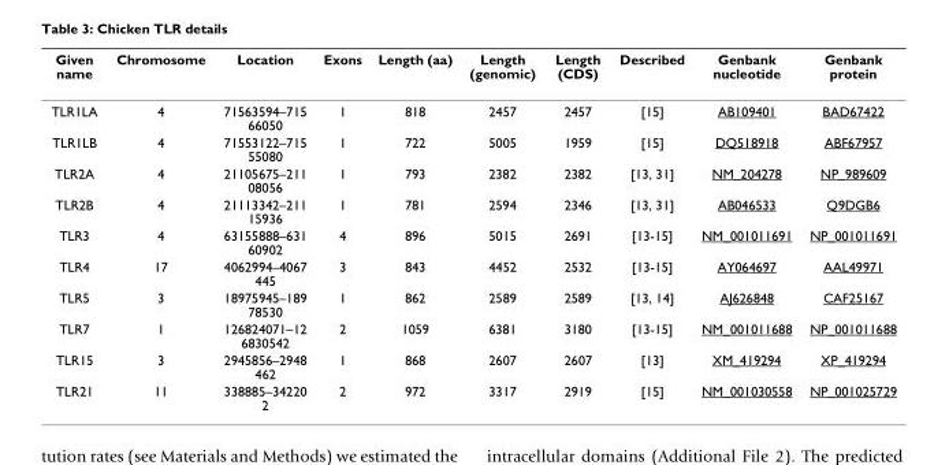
<table><thead><tr><td>Given name</td><td>Chromosome</td><td>Location</td><td>Exons</td><td>Length (aa)</td><td>Length (genomic)</td><td>Length (CDS)</td><td>Described</td><td>Genbank nucleotide</td><td>Genbank protein</td></tr></thead><tbody><tr><td>TLR1LA</td><td>4</td><td>71563594–715 66050</td><td>1</td><td>818</td><td>2457</td><td>2457</td><td>[15]</td><td>AB109401</td><td>BAD67422</td></tr><tr><td>TLR1LB</td><td>4</td><td>71553122–715 55080</td><td>1</td><td>722</td><td>5005</td><td>1959</td><td>[15]</td><td>DQ518918</td><td>ABF67957</td></tr><tr><td>TLR2A</td><td>4</td><td>21105675–211 08056</td><td>1</td><td>793</td><td>2382</td><td>2382</td><td>[13, 31]</td><td>NM_204278</td><td>NP_989609</td></tr><tr><td>TLR2B</td><td>4</td><td>21113342–211 15936</td><td>1</td><td>781</td><td>2594</td><td>2346</td><td>[13, 31]</td><td>AB046533</td><td>Q9DGB6</td></tr><tr><td>TLR3</td><td>4</td><td>63155888–631 60902</td><td>4</td><td>896</td><td>5015</td><td>2691</td><td>[13-15]</td><td>NM_001011691</td><td>NP_001011691</td></tr><tr><td>TLR4</td><td>17</td><td>4062994–4067 445</td><td>3</td><td>843</td><td>4452</td><td>2532</td><td>[13-15]</td><td>AY064697</td><td>AAL49971</td></tr><tr><td>TLR5</td><td>3</td><td>18975945–189 78530</td><td>1</td><td>862</td><td>2589</td><td>2589</td><td>[13, 14]</td><td>AJ626848</td><td>CAF25167</td></tr><tr><td>TLR7</td><td>1</td><td>126824071–12 6830542</td><td>2</td><td>1059</td><td>6381</td><td>3180</td><td>[13-15]</td><td>NM_001011688</td><td>NP_001011688</td></tr><tr><td>TLR15</td><td>3</td><td>2945856–2948 462</td><td>1</td><td>868</td><td>2607</td><td>2607</td><td>[13]</td><td>XM_419294</td><td>XP_419294</td></tr><tr><td>TLR21</td><td>11</td><td>338885–34220 2</td><td>2</td><td>972</td><td>3317</td><td>2919</td><td>[15]</td><td>NM_001030558</td><td>NP_001025729</td></tr></tbody></table>